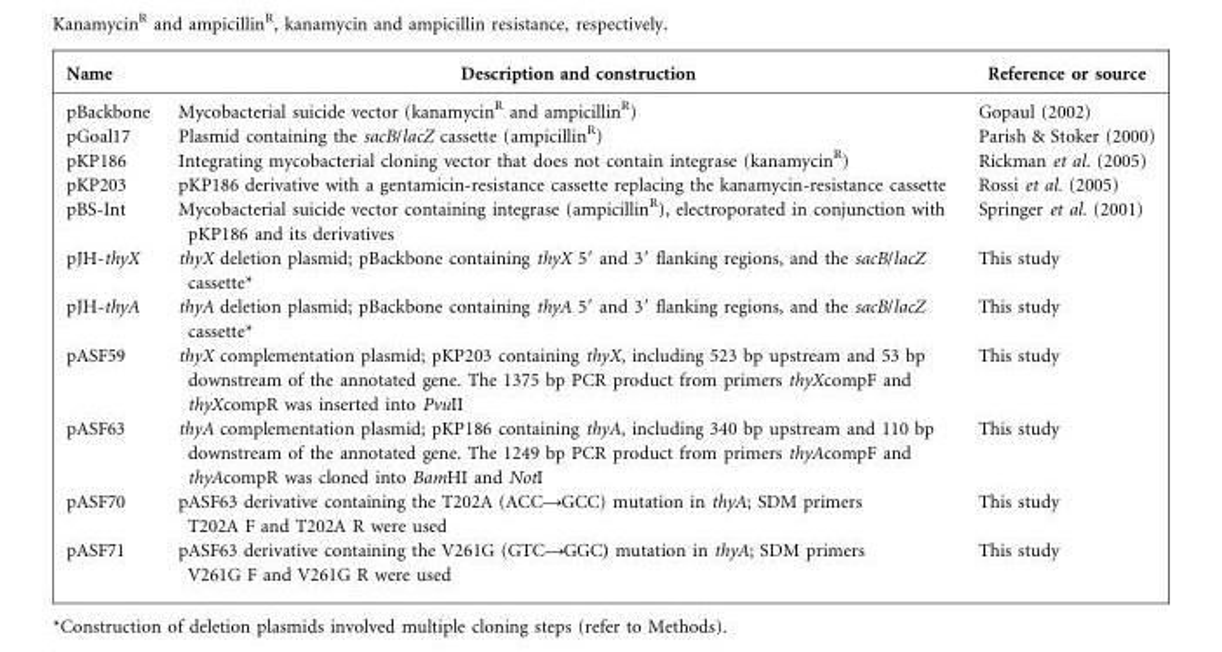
<table><thead><tr><td>Name</td><td>Description and construction</td><td>Reference or source</td></tr></thead><tbody><tr><td>pBackbone</td><td>Mycobacterial suicide vector (kanamycin<sup>R</sup> and ampicillin<sup>R</sup>)</td><td>Gopaul (2002)</td></tr><tr><td>pGoal17</td><td>Plasmid containing the sacB/lacZ cassette (ampicillin<sup>R</sup>)</td><td>Parish &amp; Stoker (2000)</td></tr><tr><td>pKP186</td><td>Integrating mycobacterial cloning vector that does not contain integrase (kanamycin<sup>R</sup>)</td><td>Rickman et al. (2005)</td></tr><tr><td>pKP203</td><td>pKP186 derivative with a gentamicin-resistance cassette replacing the kanamycin-resistance cassette</td><td>Rossi et al. (2005)</td></tr><tr><td>pBS-Int</td><td>Mycobacterial suicide vector containing integrase (ampicillin<sup>R</sup>), electroporated in conjunction with pKP186 and its derivatives</td><td>Springer et al. (2001)</td></tr><tr><td>pJH-thyX</td><td>thyX deletion plasmid; pBackbone containing thyX 5′ and 3′ flanking regions, and the sacB/lacZ cassette*</td><td>This study</td></tr><tr><td>pJH-thyA</td><td>thyA deletion plasmid; pBackbone containing thyA 5′ and 3′ flanking regions, and the sacB/lacZ cassette*</td><td>This study</td></tr><tr><td>pASF59</td><td>thyX complementation plasmid; pKP203 containing thyX, including 523 bp upstream and 53 bp downstream of the annotated gene. The 1375 bp PCR product from primers thyXcompF and thyXcompR was inserted into PvuII</td><td>This study</td></tr><tr><td>pASF63</td><td>thyA complementation plasmid; pKP186 containing thyA, including 340 bp upstream and 110 bp downstream of the annotated gene. The 1249 bp PCR product from primers thyAcompF and thyAcompR was cloned into BamHI and NotI</td><td>This study</td></tr><tr><td>pASF70</td><td>pASF63 derivative containing the T202A (ACC→GCC) mutation in thyA; SDM primers T202A F and T202A R were used</td><td>This study</td></tr><tr><td>pASF71</td><td>pASF63 derivative containing the V261G (GTC→GGC) mutation in thyA; SDM primers V261G F and V261G R were used</td><td>This study</td></tr></tbody></table>